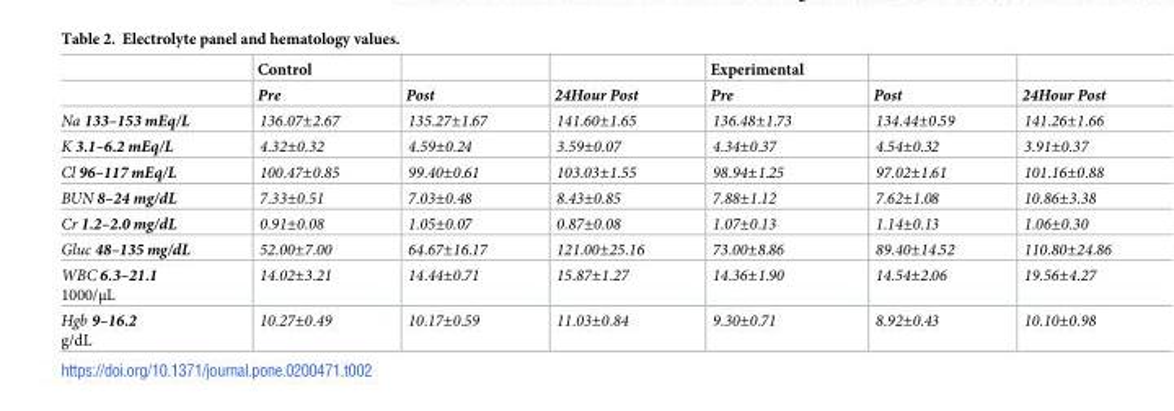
<table><thead><tr><td rowspan="2"></td><td rowspan="2">Control Pre</td><td rowspan="2">Post</td><td rowspan="2">24Hour Post</td><td rowspan="2">Experimental Pre</td><td rowspan="2">Post</td><td rowspan="2">24Hour Post</td></tr><tr></tr></thead><tbody><tr><td>Na 133–153 mEq/L</td><td>136.07±2.67</td><td>135.27±1.67</td><td>141.60±1.65</td><td>136.48±1.73</td><td>134.44±0.59</td><td>141.26±1.66</td></tr><tr><td>K 3.1–6.2 mEq/L</td><td>4.32±0.32</td><td>4.59±0.24</td><td>3.59±0.07</td><td>4.34±0.37</td><td>4.54±0.32</td><td>3.91±0.37</td></tr><tr><td>Cl 96–117 mEq/L</td><td>100.47±0.85</td><td>99.40±0.61</td><td>103.03±1.55</td><td>98.94±1.25</td><td>97.02±1.61</td><td>101.16±0.88</td></tr><tr><td>BUN 8–24 mg/dL</td><td>7.33±0.51</td><td>7.03±0.48</td><td>8.43±0.85</td><td>7.88±1.12</td><td>7.62±1.08</td><td>10.86±3.38</td></tr><tr><td>Cr 1.2–2.0 mg/dL</td><td>0.91±0.08</td><td>1.05±0.07</td><td>0.87±0.08</td><td>1.07±0.13</td><td>1.14±0.13</td><td>1.06±0.30</td></tr><tr><td>Gluc 48–135 mg/dL</td><td>52.00±7.00</td><td>64.67±16.17</td><td>121.00±25.16</td><td>73.00±8.86</td><td>89.40±14.52</td><td>110.80±24.86</td></tr><tr><td>WBC 6.3–21.1 1000/μL</td><td>14.02±3.21</td><td>14.44±0.71</td><td>15.87±1.27</td><td>14.36±1.90</td><td>14.54±2.06</td><td>19.56±4.27</td></tr><tr><td>Hgb 9–16.2 g/dL</td><td>10.27±0.49</td><td>10.17±0.59</td><td>11.03±0.84</td><td>9.30±0.71</td><td>8.92±0.43</td><td>10.10±0.98</td></tr></tbody></table>